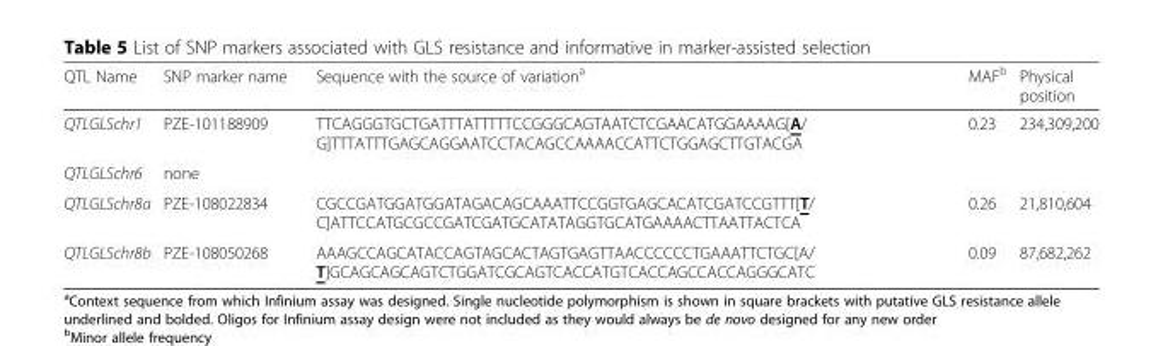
<table><thead><tr><td>QTL Name</td><td>SNP marker name</td><td>Sequence with the source of variation<sup>a</sup></td><td>MAF<sup>b</sup></td><td>Physical position</td></tr></thead><tbody><tr><td>QTLGLSchr1</td><td>PZE-101188909</td><td>TTCAGGGTGCTGATTTATTTTTCCGGGCAGTAATCTCGAACATGGAAAAG[A/ G]TTTATTTGAGCAGGAATCCTACAGCCAAAACCATTCTGGAGCTTGTACGA</td><td>0.23</td><td>234,309,200</td></tr><tr><td>QTLGLSchr6</td><td>none</td><td></td><td></td><td></td></tr><tr><td>QTLGLSchr8a</td><td>PZE-108022834</td><td>CGCCGATGGATGGATAGACAGCAAATTCCGGTGAGCACATCGATCCGTTT[T/ C]ATTCCATGCGCCGATCGATGCATATAGGTGCATGAAAACTTAATTACTCA</td><td>0.26</td><td>21,810,604</td></tr><tr><td>QTLGLSchr8b</td><td>PZE-108050268</td><td>AAAGCCAGCATACCAGTAGCACTAGTGAGTTAACCCCCCTGAAATTCTGC[A/ T]GCAGCAGCAGTCTGGATCGCAGTCACCATGTCACCAGCCACCAGGGCATC</td><td>0.09</td><td>87,682,262</td></tr></tbody></table>